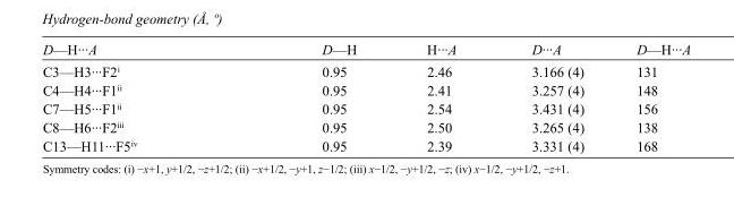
<table><tbody><tr><td>D—H···A</td><td>D—H</td><td>H···A</td><td>D···A</td><td>D—H···A</td></tr><tr><td>C3—H3···F2<sup>i</sup></td><td>0.95</td><td>2.46</td><td>3.166 (4)</td><td>131</td></tr><tr><td>C4—H4···F1<sup>ii</sup></td><td>0.95</td><td>2.41</td><td>3.257 (4)</td><td>148</td></tr><tr><td>C7—H5···F1<sup>ii</sup></td><td>0.95</td><td>2.54</td><td>3.431 (4)</td><td>156</td></tr><tr><td>C8—H6···F2<sup>iii</sup></td><td>0.95</td><td>2.50</td><td>3.265 (4)</td><td>138</td></tr><tr><td>C13—H11···F5<sup>iv</sup></td><td>0.95</td><td>2.39</td><td>3.331 (4)</td><td>168</td></tr></tbody></table>